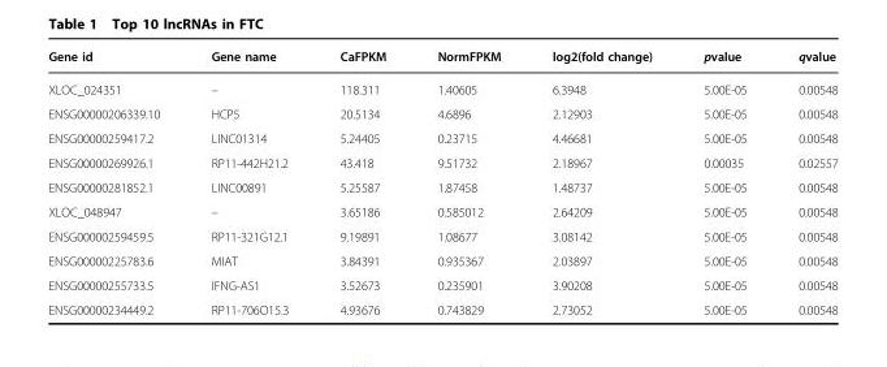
<table><thead><tr><td>Gene id</td><td>Gene name</td><td>CaFPKM</td><td>NormFPKM</td><td>log2(fold change)</td><td>pvalue</td><td>qvalue</td></tr></thead><tbody><tr><td>XLOC_024351</td><td>–</td><td>118.311</td><td>1.40605</td><td>6.3948</td><td>5.00E-05</td><td>0.00548</td></tr><tr><td>ENSG00000206339.10</td><td>HCP5</td><td>20.5134</td><td>4.6896</td><td>2.12903</td><td>5.00E-05</td><td>0.00548</td></tr><tr><td>ENSG00000259417.2</td><td>LINC01314</td><td>5.24405</td><td>0.23715</td><td>4.46681</td><td>5.00E-05</td><td>0.00548</td></tr><tr><td>ENSG00000269926.1</td><td>RP11-442H21.2</td><td>43.418</td><td>9.51732</td><td>2.18967</td><td>0.00035</td><td>0.02557</td></tr><tr><td>ENSG00000281852.1</td><td>LINC00891</td><td>5.25587</td><td>1.87458</td><td>1.48737</td><td>5.00E-05</td><td>0.00548</td></tr><tr><td>XLOC_048947</td><td>–</td><td>3.65186</td><td>0.585012</td><td>2.64209</td><td>5.00E-05</td><td>0.00548</td></tr><tr><td>ENSG00000259459.5</td><td>RP11-321G12.1</td><td>9.19891</td><td>1.08677</td><td>3.08142</td><td>5.00E-05</td><td>0.00548</td></tr><tr><td>ENSG00000225783.6</td><td>MIAT</td><td>3.84391</td><td>0.935367</td><td>2.03897</td><td>5.00E-05</td><td>0.00548</td></tr><tr><td>ENSG00000255733.5</td><td>IFNG-AS1</td><td>3.52673</td><td>0.235901</td><td>3.90208</td><td>5.00E-05</td><td>0.00548</td></tr><tr><td>ENSG00000234449.2</td><td>RP11-706O15.3</td><td>4.93676</td><td>0.743829</td><td>2.73052</td><td>5.00E-05</td><td>0.00548</td></tr></tbody></table>